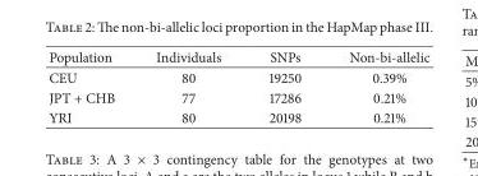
<table><thead><tr><td>Population</td><td>Individuals</td><td>SNPs</td><td>Non-bi-allelic</td></tr></thead><tbody><tr><td>CEU</td><td>80</td><td>19250</td><td>0.39%</td></tr><tr><td>JPT + CHB</td><td>77</td><td>17286</td><td>0.21%</td></tr><tr><td>YRI</td><td>80</td><td>20198</td><td>0.21%</td></tr></tbody></table>